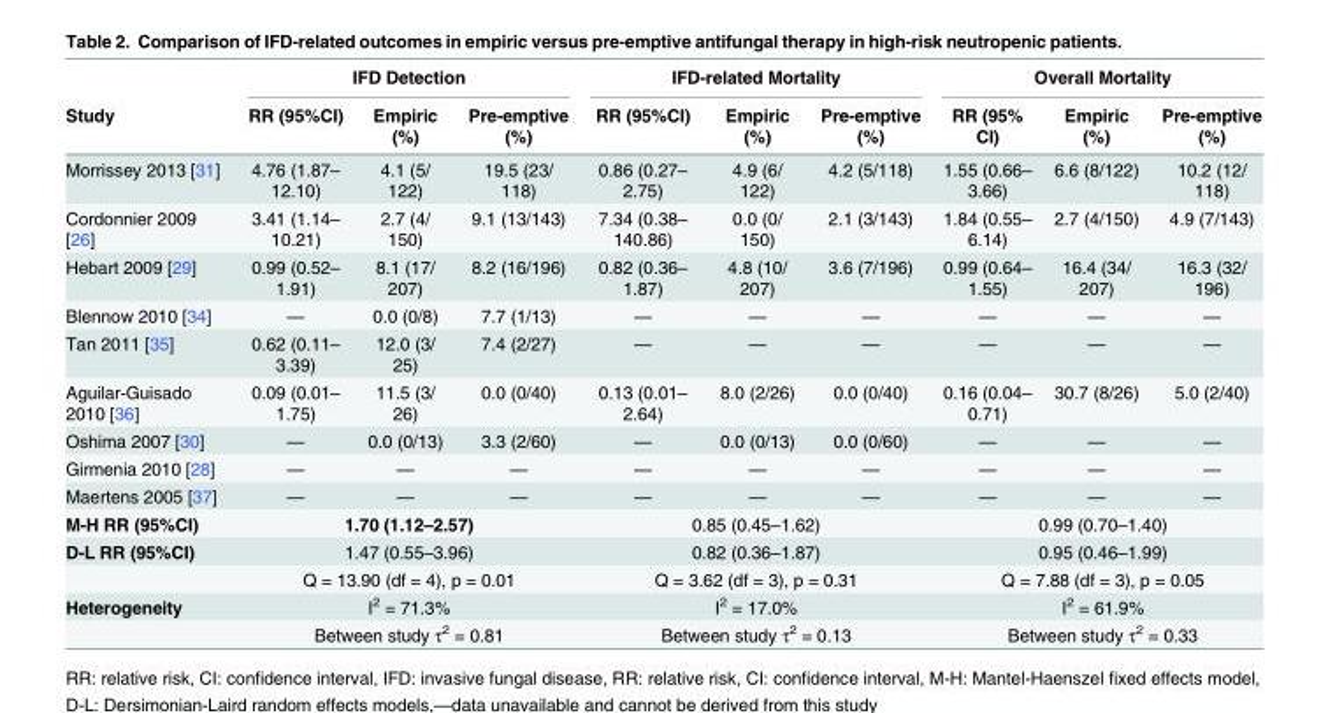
<table><thead><tr><td rowspan="2">Study</td><td colspan="3">IFD Detection</td><td colspan="3">IFD-related Mortality</td><td colspan="3">Overall Mortality</td></tr><tr><td>RR (95%CI)</td><td>Empiric (%)</td><td>Pre-emptive (%)</td><td>RR (95%CI)</td><td>Empiric (%)</td><td>Pre-emptive (%)</td><td>RR (95% CI)</td><td>Empiric (%)</td><td>Pre-emptive (%)</td></tr></thead><tbody><tr><td>Morrissey 2013 [31]</td><td>4.76 (1.87– 12.10)</td><td>4.1 (5/ 122)</td><td>19.5 (23/ 118)</td><td>0.86 (0.27– 2.75)</td><td>4.9 (6/ 122)</td><td>4.2 (5/118)</td><td>1.55 (0.66– 3.66)</td><td>6.6 (8/122)</td><td>10.2 (12/ 118)</td></tr><tr><td>Cordonnier 2009 [26]</td><td>3.41 (1.14– 10.21)</td><td>2.7 (4/ 150)</td><td>9.1 (13/143)</td><td>7.34 (0.38– 140.86)</td><td>0.0 (0/ 150)</td><td>2.1 (3/143)</td><td>1.84 (0.55– 6.14)</td><td>2.7 (4/150)</td><td>4.9 (7/143)</td></tr><tr><td>Hebart 2009 [29]</td><td>0.99 (0.52– 1.91)</td><td>8.1 (17/ 207)</td><td>8.2 (16/196)</td><td>0.82 (0.36– 1.87)</td><td>4.8 (10/ 207)</td><td>3.6 (7/196)</td><td>0.99 (0.64– 1.55)</td><td>16.4 (34/ 207)</td><td>16.3 (32/ 196)</td></tr><tr><td>Blennow 2010 [34]</td><td>—</td><td>0.0 (0/8)</td><td>7.7 (1/13)</td><td>—</td><td>—</td><td>—</td><td>—</td><td>—</td><td>—</td></tr><tr><td>Tan 2011 [35]</td><td>0.62 (0.11– 3.39)</td><td>12.0 (3/ 25)</td><td>7.4 (2/27)</td><td>—</td><td>—</td><td>—</td><td>—</td><td>—</td><td>—</td></tr><tr><td>Aguilar-Guisado 2010 [36]</td><td>0.09 (0.01– 1.75)</td><td>11.5 (3/ 26)</td><td>0.0 (0/40)</td><td>0.13 (0.01– 2.64)</td><td>8.0 (2/26)</td><td>0.0 (0/40)</td><td>0.16 (0.04– 0.71)</td><td>30.7 (8/26)</td><td>5.0 (2/40)</td></tr><tr><td>Oshima 2007 [30]</td><td>—</td><td>0.0 (0/13)</td><td>3.3 (2/60)</td><td>—</td><td>0.0 (0/13)</td><td>0.0 (0/60)</td><td>—</td><td>—</td><td>—</td></tr><tr><td>Girmenia 2010 [28]</td><td>—</td><td>—</td><td>—</td><td>—</td><td>—</td><td>—</td><td>—</td><td>—</td><td>—</td></tr><tr><td>Maertens 2005 [37]</td><td>—</td><td>—</td><td>—</td><td>—</td><td>—</td><td>—</td><td>—</td><td>—</td><td>—</td></tr><tr><td>M-H RR (95%CI)</td><td colspan="3">1.70 (1.12–2.57)</td><td colspan="3">0.85 (0.45–1.62)</td><td colspan="3">0.99 (0.70–1.40)</td></tr><tr><td rowspan="2">D-L RR (95%CI)</td><td colspan="3">1.47 (0.55–3.96)</td><td colspan="3">0.82 (0.36–1.87)</td><td colspan="3">0.95 (0.46–1.99)</td></tr><tr><td colspan="3">Q = 13.90 (df = 4), p = 0.01</td><td colspan="3">Q = 3.62 (df = 3), p = 0.31</td><td colspan="3">Q = 7.88 (df = 3), p = 0.05</td></tr><tr><td rowspan="2">Heterogeneity</td><td colspan="3">I<sup>2</sup> = 71.3%</td><td colspan="3">I<sup>2</sup> = 17.0%</td><td colspan="3">I<sup>2</sup> = 61.9%</td></tr><tr><td colspan="3">Between study τ<sup>2</sup> = 0.81</td><td colspan="3">Between study τ<sup>2</sup> = 0.13</td><td colspan="3">Between study τ<sup>2</sup> = 0.33</td></tr></tbody></table>